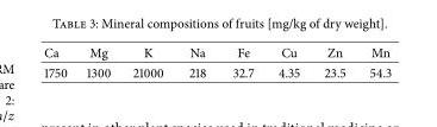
<table><thead><tr><td>Ca</td><td>Mg</td><td>K</td><td>Na</td><td>Fe</td><td>Cu</td><td>Zn</td><td>Mn</td></tr></thead><tbody><tr><td>1750</td><td>1300</td><td>21000</td><td>218</td><td>32.7</td><td>4.35</td><td>23.5</td><td>54.3</td></tr></tbody></table>